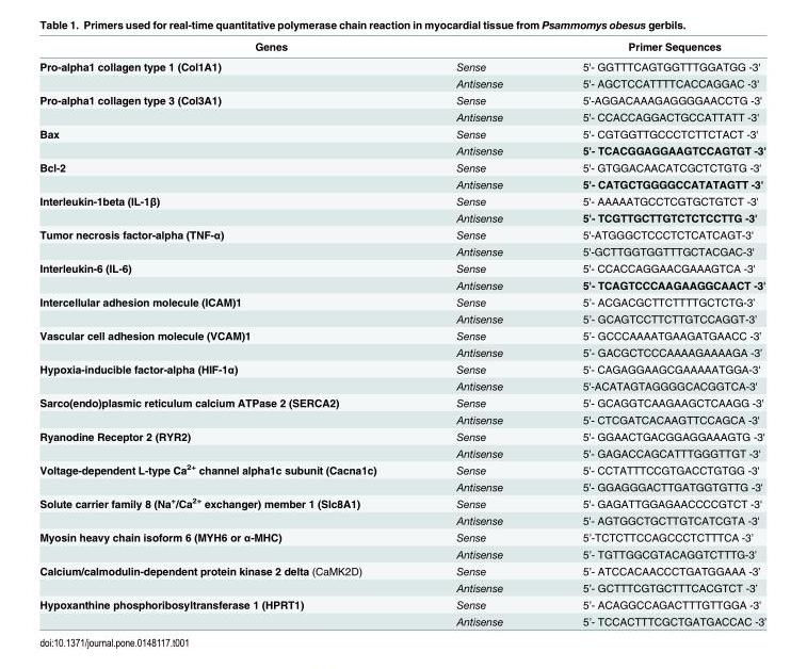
<table><thead><tr><td colspan="2">Genes</td><td rowspan="2">Primer Sequences 5&#x27;- GGTTTCAGTGGTTTGGATGG -3&#x27;</td></tr><tr><td>Pro-alpha1 collagen type 1 (Col1A1)</td><td>Sense</td></tr></thead><tbody><tr><td></td><td>Antisense</td><td>5&#x27;- AGCTCCATTTTCACCAGGAC -3&#x27;</td></tr><tr><td rowspan="2">Pro-alpha1 collagen type 3 (Col3A1)</td><td>Sense</td><td>5&#x27;-AGGACAAAGAGGGGAACCTG -3&#x27;</td></tr><tr><td>Antisense</td><td>5&#x27;- CCACCAGGACTGCCATTATT -3&#x27;</td></tr><tr><td rowspan="2">Bax</td><td>Sense</td><td>5&#x27;- CGTGGTTGCCCTCTTCTACT -3&#x27;</td></tr><tr><td>Antisense</td><td>5&#x27;- TCACGGAGGAAGTCCAGTGT -3&#x27;</td></tr><tr><td rowspan="2">Bcl-2</td><td>Sense</td><td>5&#x27;- GTGGACAACATCGCTCTGTG -3&#x27;</td></tr><tr><td>Antisense</td><td>5&#x27;- CATGCTGGGGCCATATAGTT -3&#x27;</td></tr><tr><td rowspan="2">Interleukin-1beta (IL-1β)</td><td>Sense</td><td>5&#x27;- AAAAATGCCTCGTGCTGTCT -3&#x27;</td></tr><tr><td>Antisense</td><td>5&#x27;- TCGTTGCTTGTCTCTCCTTG -3&#x27;</td></tr><tr><td rowspan="2">Tumor necrosis factor-alpha (TNF-α)</td><td>Sense</td><td>5&#x27;-ATGGGCTCCCTCTCATCAGT-3&#x27;</td></tr><tr><td>Antisense</td><td>5&#x27;-GCTTGGTGGTTTGCTACGAC-3&#x27;</td></tr><tr><td rowspan="2">Interleukin-6 (IL-6)</td><td>Sense</td><td>5&#x27;- CCACCAGGAACGAAAGTCA -3&#x27;</td></tr><tr><td>Antisense</td><td>5&#x27;- TCAGTCCCAAGAAGGCAACT -3&#x27;</td></tr><tr><td rowspan="2">Intercellular adhesion molecule (ICAM)1</td><td>Sense</td><td>5’- ACGACGCTTCTTTTGCTCTG-3’</td></tr><tr><td>Antisense</td><td>5’- GCAGTCCTTCTTGTCCAGGT-3’</td></tr><tr><td rowspan="2">Vascular cell adhesion molecule (VCAM)1</td><td>Sense</td><td>5’- GCCCAAAATGAAGATGAACC -3’</td></tr><tr><td>Antisense</td><td>5’- GACGCTCCCAAAAGAAAAGA -3’</td></tr><tr><td rowspan="2">Hypoxia-inducible factor-alpha (HIF-1α)</td><td>Sense</td><td>5&#x27;- CAGAGGAAGCGAAAAATGGA-3&#x27;</td></tr><tr><td>Antisense</td><td>5&#x27;-ACATAGTAGGGGCACGGTCA-3&#x27;</td></tr><tr><td rowspan="2">Sarco(endo)plasmic reticulum calcium ATPase 2 (SERCA2)</td><td>Sense</td><td>5&#x27;- GCAGGTCAAGAAGCTCAAGG -3&#x27;</td></tr><tr><td>Antisense</td><td>5&#x27;- CTCGATCACAAGTTCCAGCA -3&#x27;</td></tr><tr><td rowspan="2">Ryanodine Receptor 2 (RYR2)</td><td>Sense</td><td>5&#x27;- GGAACTGACGGAGGAAAGTG -3&#x27;</td></tr><tr><td>Antisense</td><td>5&#x27;- GAGACCAGCATTTGGGTTGT -3&#x27;</td></tr><tr><td rowspan="2">Voltage-dependent L-type Ca<sup>2+</sup> channel alpha1c subunit (Cacna1c)</td><td>Sense</td><td>5&#x27;- CCTATTTCCGTGACCTGTGG -3&#x27;</td></tr><tr><td>Antisense</td><td>5&#x27;- GGAGGGACTTGATGGTGTTG -3&#x27;</td></tr><tr><td rowspan="2">Solute carrier family 8 (Na<sup>+</sup>/Ca<sup>2+</sup> exchanger) member 1 (Slc8A1)</td><td>Sense</td><td>5&#x27;- GAGATTGGAGAACCCCGTCT -3&#x27;</td></tr><tr><td>Antisense</td><td>5&#x27;- AGTGGCTGCTTGTCATCGTA -3&#x27;</td></tr><tr><td rowspan="2">Myosin heavy chain isoform 6 (MYH6 or α-MHC)</td><td>Sense</td><td>5’-TCTCTTCCAGCCCTCTTTCA -3’</td></tr><tr><td>Antisense</td><td>5’- TGTTGGCGTACAGGTCTTTG-3’</td></tr><tr><td rowspan="2">Calcium/calmodulin-dependent protein kinase 2 delta (CaMK2D)</td><td>Sense</td><td>5’- ATCCACAACCCTGATGGAAA -3’</td></tr><tr><td>Antisense</td><td>5’- GCTTTCGTGCTTTCACGTCT -3’</td></tr><tr><td rowspan="2">Hypoxanthine phosphoribosyltransferase 1 (HPRT1)</td><td>Sense</td><td>5’- ACAGGCCAGACTTTGTTGGA -3’</td></tr><tr><td>Antisense</td><td>5’- TCCACTTTCGCTGATGACCAC -3’</td></tr></tbody></table>